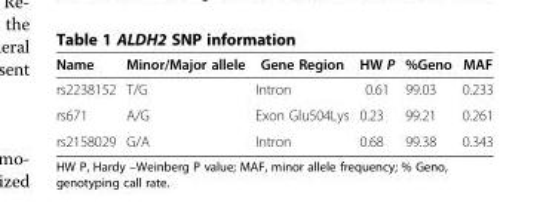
<table><thead><tr><td>Name</td><td>Minor/Major allele</td><td>Gene Region</td><td>HW P</td><td>%Geno</td><td>MAF</td></tr></thead><tbody><tr><td>rs2238152</td><td>T/G</td><td>Intron</td><td>0.61</td><td>99.03</td><td>0.233</td></tr><tr><td>rs671</td><td>A/G</td><td>Exon Glu504Lys</td><td>0.23</td><td>99.21</td><td>0.261</td></tr><tr><td>rs2158029</td><td>G/A</td><td>Intron</td><td>0.68</td><td>99.38</td><td>0.343</td></tr></tbody></table>